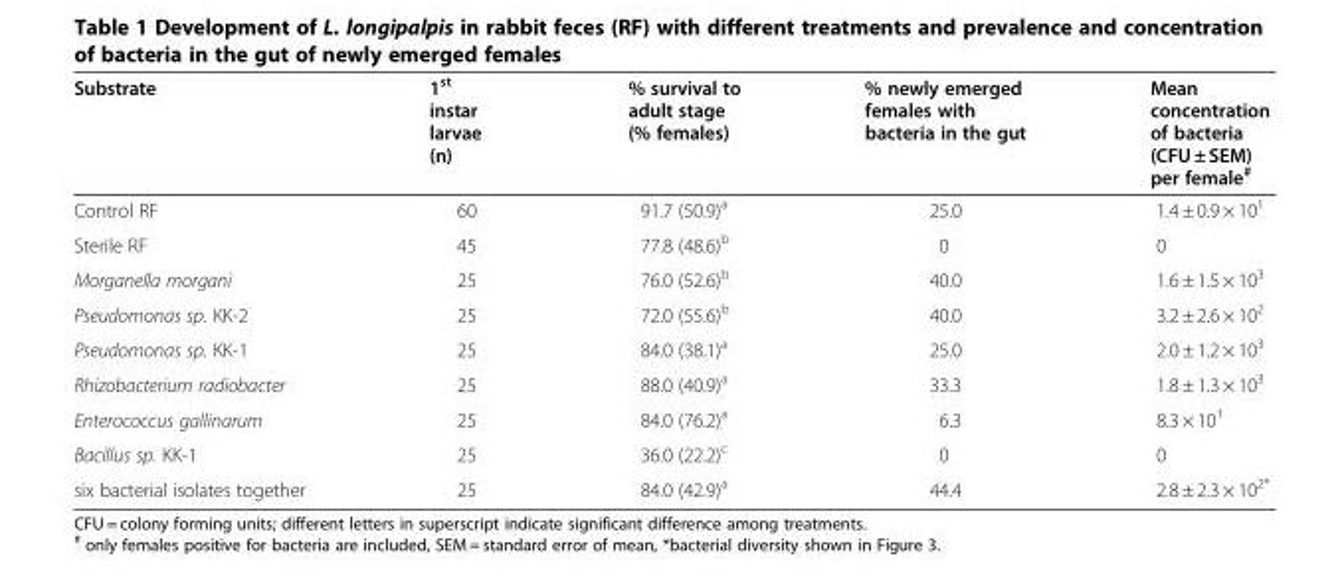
<table><thead><tr><td>Substrate</td><td>1<sup>st</sup> instar larvae (n)</td><td>% survival to adult stage (% females)</td><td>% newly emerged females with bacteria in the gut</td><td>Mean concentration of bacteria (CFU ± SEM) per female<sup>#</sup></td></tr></thead><tbody><tr><td>Control RF</td><td>60</td><td>91.7 (50.9)<sup>a</sup></td><td>25.0</td><td>1.4 ± 0.9 × 10<sup>1</sup></td></tr><tr><td>Sterile RF</td><td>45</td><td>77.8 (48.6)<sup>b</sup></td><td>0</td><td>0</td></tr><tr><td>Morganella morgani</td><td>25</td><td>76.0 (52.6)<sup>b</sup></td><td>40.0</td><td>1.6 ± 1.5 × 10<sup>3</sup></td></tr><tr><td>Pseudomonas sp. KK-2</td><td>25</td><td>72.0 (55.6)<sup>b</sup></td><td>40.0</td><td>3.2 ± 2.6 × 10<sup>2</sup></td></tr><tr><td>Pseudomonas sp. KK-1</td><td>25</td><td>84.0 (38.1)<sup>a</sup></td><td>25.0</td><td>2.0 ± 1.2 × 10<sup>3</sup></td></tr><tr><td>Rhizobacterium radiobacter</td><td>25</td><td>88.0 (40.9)<sup>a</sup></td><td>33.3</td><td>1.8 ± 1.3 × 10<sup>3</sup></td></tr><tr><td>Enterococcus gallinarum</td><td>25</td><td>84.0 (76.2)<sup>a</sup></td><td>6.3</td><td>8.3 × 10<sup>1</sup></td></tr><tr><td>Bacillus sp. KK-1</td><td>25</td><td>36.0 (22.2)<sup>c</sup></td><td>0</td><td>0</td></tr><tr><td>six bacterial isolates together</td><td>25</td><td>84.0 (42.9)<sup>a</sup></td><td>44.4</td><td>2.8 ± 2.3 × 10<sup>2*</sup></td></tr></tbody></table>